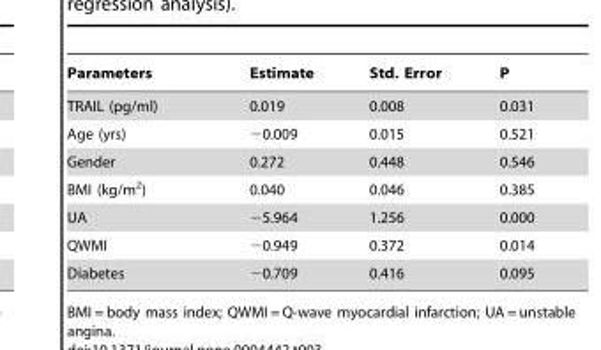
<table><thead><tr><td>Parameters</td><td>Estimate</td><td>Std. Error</td><td>P</td></tr></thead><tbody><tr><td>TRAIL (pg/ml)</td><td>0.019</td><td>0.008</td><td>0.031</td></tr><tr><td>Age (yrs)</td><td>−0.009</td><td>0.015</td><td>0.521</td></tr><tr><td>Gender</td><td>0.272</td><td>0.448</td><td>0.546</td></tr><tr><td>BMI (kg/m<sup>2</sup>)</td><td>0.040</td><td>0.046</td><td>0.385</td></tr><tr><td>UA</td><td>−5.964</td><td>1.256</td><td>0.000</td></tr><tr><td>QWMI</td><td>−0.949</td><td>0.372</td><td>0.014</td></tr><tr><td>Diabetes</td><td>−0.709</td><td>0.416</td><td>0.095</td></tr></tbody></table>